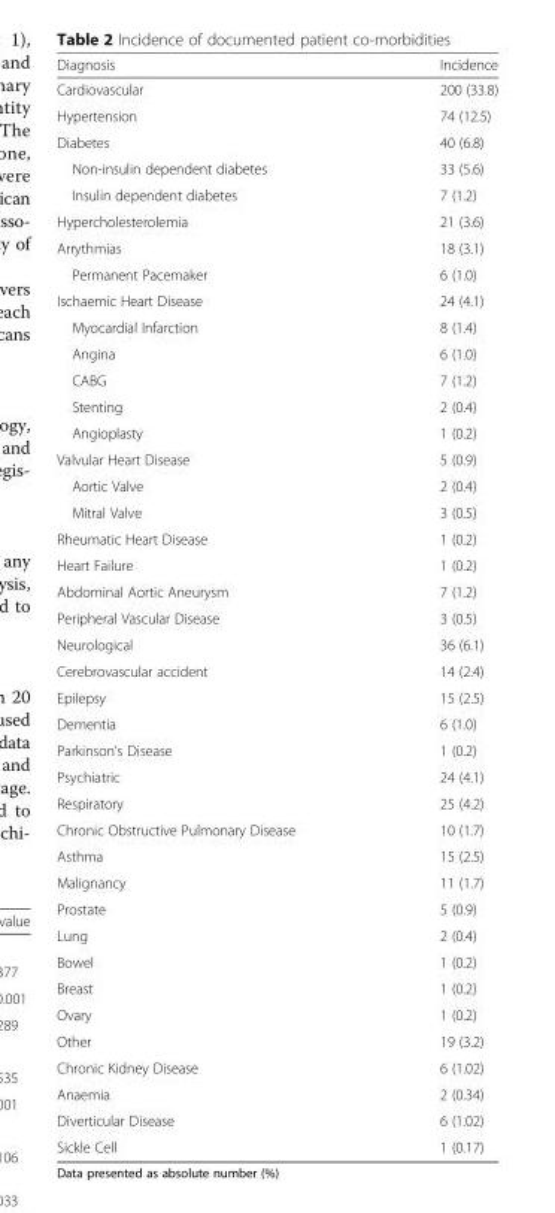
<table><thead><tr><td>Diagnosis</td><td>Incidence</td></tr></thead><tbody><tr><td>Cardiovascular</td><td>200 (33.8)</td></tr><tr><td>Hypertension</td><td>74 (12.5)</td></tr><tr><td>Diabetes</td><td>40 (6.8)</td></tr><tr><td>Non-insulin dependent diabetes</td><td>33 (5.6)</td></tr><tr><td>Insulin dependent diabetes</td><td>7 (1.2)</td></tr><tr><td>Hypercholesterolemia</td><td>21 (3.6)</td></tr><tr><td>Arrythmias</td><td>18 (3.1)</td></tr><tr><td>Permanent Pacemaker</td><td>6 (1.0)</td></tr><tr><td>Ischaemic Heart Disease</td><td>24 (4.1)</td></tr><tr><td>Myocardial Infarction</td><td>8 (1.4)</td></tr><tr><td>Angina</td><td>6 (1.0)</td></tr><tr><td>CABG</td><td>7 (1.2)</td></tr><tr><td>Stenting</td><td>2 (0.4)</td></tr><tr><td>Angioplasty</td><td>1 (0.2)</td></tr><tr><td>Valvular Heart Disease</td><td>5 (0.9)</td></tr><tr><td>Aortic Valve</td><td>2 (0.4)</td></tr><tr><td>Mitral Valve</td><td>3 (0.5)</td></tr><tr><td>Rheumatic Heart Disease</td><td>1 (0.2)</td></tr><tr><td>Heart Failure</td><td>1 (0.2)</td></tr><tr><td>Abdominal Aortic Aneurysm</td><td>7 (1.2)</td></tr><tr><td>Peripheral Vascular Disease</td><td>3 (0.5)</td></tr><tr><td>Neurological</td><td>36 (6.1)</td></tr><tr><td>Cerebrovascular accident</td><td>14 (2.4)</td></tr><tr><td>Epilepsy</td><td>15 (2.5)</td></tr><tr><td>Dementia</td><td>6 (1.0)</td></tr><tr><td>Parkinson’s Disease</td><td>1 (0.2)</td></tr><tr><td>Psychiatric</td><td>24 (4.1)</td></tr><tr><td>Respiratory</td><td>25 (4.2)</td></tr><tr><td>Chronic Obstructive Pulmonary Disease</td><td>10 (1.7)</td></tr><tr><td>Asthma</td><td>15 (2.5)</td></tr><tr><td>Malignancy</td><td>11 (1.7)</td></tr><tr><td>Prostate</td><td>5 (0.9)</td></tr><tr><td>Lung</td><td>2 (0.4)</td></tr><tr><td>Bowel</td><td>1 (0.2)</td></tr><tr><td>Breast</td><td>1 (0.2)</td></tr><tr><td>Ovary</td><td>1 (0.2)</td></tr><tr><td>Other</td><td>19 (3.2)</td></tr><tr><td>Chronic Kidney Disease</td><td>6 (1.02)</td></tr><tr><td>Anaemia</td><td>2 (0.34)</td></tr><tr><td>Diverticular Disease</td><td>6 (1.02)</td></tr><tr><td>Sickle Cell</td><td>1 (0.17)</td></tr></tbody></table>